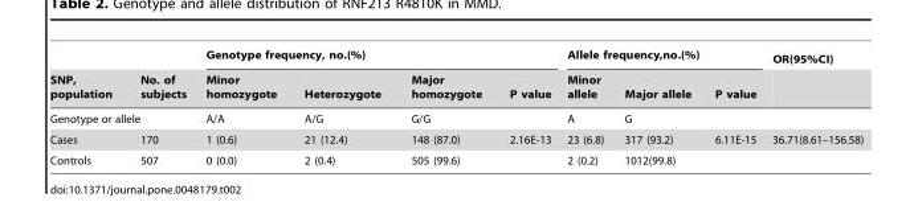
<table><thead><tr><td rowspan="2">SNP, population</td><td rowspan="2">No. of subjects</td><td colspan="4">Genotype frequency, no.(%)</td><td colspan="3">Allele frequency,no.(%)</td><td rowspan="2">OR(95%CI)</td></tr><tr><td>Minor homozygote</td><td>Heterozygote</td><td>Major homozygote</td><td>P value</td><td>Minor allele</td><td>Major allele</td><td>P value</td></tr></thead><tbody><tr><td>Genotype or allele</td><td></td><td>A/A</td><td>A/G</td><td>G/G</td><td></td><td>A</td><td>G</td><td></td><td></td></tr><tr><td>Cases</td><td>170</td><td>1 (0.6)</td><td>21 (12.4)</td><td>148 (87.0)</td><td>2.16E-13</td><td>23 (6.8)</td><td>317 (93.2)</td><td>6.11E-15</td><td>36.71(8.61–156.58)</td></tr><tr><td>Controls</td><td>507</td><td>0 (0.0)</td><td>2 (0.4)</td><td>505 (99.6)</td><td></td><td>2 (0.2)</td><td>1012(99.8)</td><td></td><td></td></tr></tbody></table>